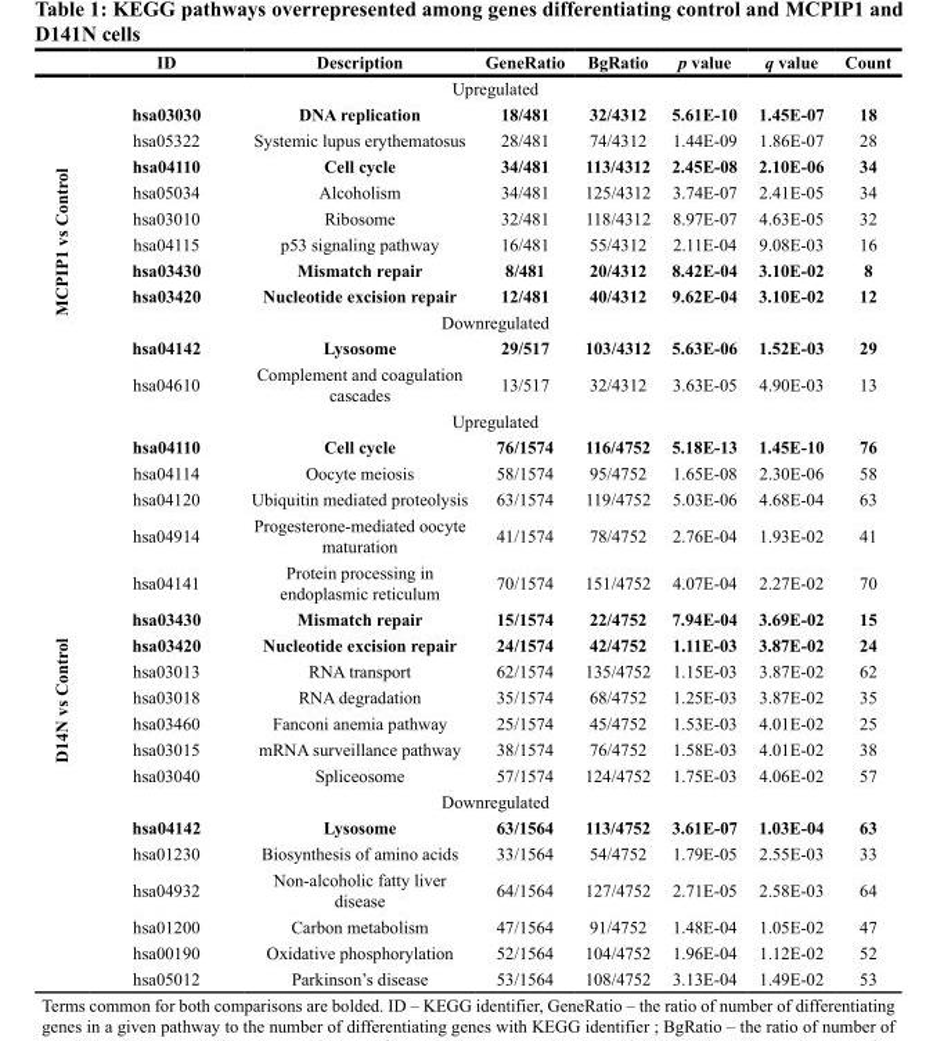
<table><thead><tr><td></td><td>ID</td><td>Description</td><td>GeneRatio</td><td>BgRatio</td><td>p value</td><td>q value</td><td>Count</td></tr></thead><tbody><tr><td rowspan="12">MCPIP1 vs Control</td><td colspan="7">Upregulated</td></tr><tr><td>hsa03030</td><td>DNA replication</td><td>18/481</td><td>32/4312</td><td>5.61E-10</td><td>1.45E-07</td><td>18</td></tr><tr><td>hsa05322</td><td>Systemic lupus erythematosus</td><td>28/481</td><td>74/4312</td><td>1.44E-09</td><td>1.86E-07</td><td>28</td></tr><tr><td>hsa04110</td><td>Cell cycle</td><td>34/481</td><td>113/4312</td><td>2.45E-08</td><td>2.10E-06</td><td>34</td></tr><tr><td>hsa05034</td><td>Alcoholism</td><td>34/481</td><td>125/4312</td><td>3.74E-07</td><td>2.41E-05</td><td>34</td></tr><tr><td>hsa03010</td><td>Ribosome</td><td>32/481</td><td>118/4312</td><td>8.97E-07</td><td>4.63E-05</td><td>32</td></tr><tr><td>hsa04115</td><td>p53 signaling pathway</td><td>16/481</td><td>55/4312</td><td>2.11E-04</td><td>9.08E-03</td><td>16</td></tr><tr><td>hsa03430</td><td>Mismatch repair</td><td>8/481</td><td>20/4312</td><td>8.42E-04</td><td>3.10E-02</td><td>8</td></tr><tr><td>hsa03420</td><td>Nucleotide excision repair</td><td>12/481</td><td>40/4312</td><td>9.62E-04</td><td>3.10E-02</td><td>12</td></tr><tr><td colspan="7">Downregulated</td></tr><tr><td>hsa04142</td><td>Lysosome</td><td>29/517</td><td>103/4312</td><td>5.63E-06</td><td>1.52E-03</td><td>29</td></tr><tr><td>hsa04610</td><td>Complement and coagulation cascades</td><td>13/517</td><td>32/4312</td><td>3.63E-05</td><td>4.90E-03</td><td>13</td></tr><tr><td rowspan="20">D14N vs Control</td><td colspan="7">Upregulated</td></tr><tr><td>hsa04110</td><td>Cell cycle</td><td>76/1574</td><td>116/4752</td><td>5.18E-13</td><td>1.45E-10</td><td>76</td></tr><tr><td>hsa04114</td><td>Oocyte meiosis</td><td>58/1574</td><td>95/4752</td><td>1.65E-08</td><td>2.30E-06</td><td>58</td></tr><tr><td>hsa04120</td><td>Ubiquitin mediated proteolysis</td><td>63/1574</td><td>119/4752</td><td>5.03E-06</td><td>4.68E-04</td><td>63</td></tr><tr><td>hsa04914</td><td>Progesterone-mediated oocyte maturation</td><td>41/1574</td><td>78/4752</td><td>2.76E-04</td><td>1.93E-02</td><td>41</td></tr><tr><td>hsa04141</td><td>Protein processing in endoplasmic reticulum</td><td>70/1574</td><td>151/4752</td><td>4.07E-04</td><td>2.27E-02</td><td>70</td></tr><tr><td>hsa03430</td><td>Mismatch repair</td><td>15/1574</td><td>22/4752</td><td>7.94E-04</td><td>3.69E-02</td><td>15</td></tr><tr><td>hsa03420</td><td>Nucleotide excision repair</td><td>24/1574</td><td>42/4752</td><td>1.11E-03</td><td>3.87E-02</td><td>24</td></tr><tr><td>hsa03013</td><td>RNA transport</td><td>62/1574</td><td>135/4752</td><td>1.15E-03</td><td>3.87E-02</td><td>62</td></tr><tr><td>hsa03018</td><td>RNA degradation</td><td>35/1574</td><td>68/4752</td><td>1.25E-03</td><td>3.87E-02</td><td>35</td></tr><tr><td>hsa03460</td><td>Fanconi anemia pathway</td><td>25/1574</td><td>45/4752</td><td>1.53E-03</td><td>4.01E-02</td><td>25</td></tr><tr><td>hsa03015</td><td>mRNA surveillance pathway</td><td>38/1574</td><td>76/4752</td><td>1.58E-03</td><td>4.01E-02</td><td>38</td></tr><tr><td>hsa03040</td><td>Spliceosome</td><td>57/1574</td><td>124/4752</td><td>1.75E-03</td><td>4.06E-02</td><td>57</td></tr><tr><td colspan="7">Downregulated</td></tr><tr><td>hsa04142</td><td>Lysosome</td><td>63/1564</td><td>113/4752</td><td>3.61E-07</td><td>1.03E-04</td><td>63</td></tr><tr><td>hsa01230</td><td>Biosynthesis of amino acids</td><td>33/1564</td><td>54/4752</td><td>1.79E-05</td><td>2.55E-03</td><td>33</td></tr><tr><td>hsa04932</td><td>Non-alcoholic fatty liver disease</td><td>64/1564</td><td>127/4752</td><td>2.71E-05</td><td>2.58E-03</td><td>64</td></tr><tr><td>hsa01200</td><td>Carbon metabolism</td><td>47/1564</td><td>91/4752</td><td>1.48E-04</td><td>1.05E-02</td><td>47</td></tr><tr><td>hsa00190</td><td>Oxidative phosphorylation</td><td>52/1564</td><td>104/4752</td><td>1.96E-04</td><td>1.12E-02</td><td>52</td></tr><tr><td>hsa05012</td><td>Parkinson’s disease</td><td>53/1564</td><td>108/4752</td><td>3.13E-04</td><td>1.49E-02</td><td>53</td></tr></tbody></table>